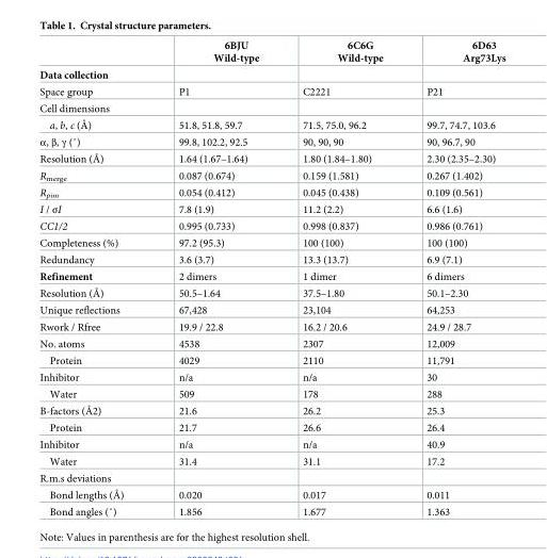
<table><thead><tr><td></td><td>6BJU Wild-type</td><td>6C6G Wild-type</td><td>6D63 Arg73Lys</td></tr></thead><tbody><tr><td colspan="4">Data collection</td></tr><tr><td>Space group</td><td>P1</td><td>C2221</td><td>P21</td></tr><tr><td colspan="4">Cell dimensions</td></tr><tr><td>a, b, c (Å)</td><td>51.8, 51.8, 59.7</td><td>71.5, 75.0, 96.2</td><td>99.7, 74.7, 103.6</td></tr><tr><td>α, β, γ (˚)</td><td>99.8, 102.2, 92.5</td><td>90, 90, 90</td><td>90, 96.7, 90</td></tr><tr><td>Resolution (Å)</td><td>1.64 (1.67–1.64)</td><td>1.80 (1.84–1.80)</td><td>2.30 (2.35–2.30)</td></tr><tr><td>R<sub>merge</sub></td><td>0.087 (0.674)</td><td>0.159 (1.581)</td><td>0.267 (1.402)</td></tr><tr><td>R<sub>pim</sub></td><td>0.054 (0.412)</td><td>0.045 (0.438)</td><td>0.109 (0.561)</td></tr><tr><td>I / σI</td><td>7.8 (1.9)</td><td>11.2 (2.2)</td><td>6.6 (1.6)</td></tr><tr><td>CC1/2</td><td>0.995 (0.733)</td><td>0.998 (0.837)</td><td>0.986 (0.761)</td></tr><tr><td>Completeness (%)</td><td>97.2 (95.3)</td><td>100 (100)</td><td>100 (100)</td></tr><tr><td>Redundancy</td><td>3.6 (3.7)</td><td>13.3 (13.7)</td><td>6.9 (7.1)</td></tr><tr><td>Refinement</td><td>2 dimers</td><td>1 dimer</td><td>6 dimers</td></tr><tr><td>Resolution (Å)</td><td>50.5–1.64</td><td>37.5–1.80</td><td>50.1–2.30</td></tr><tr><td>Unique reflections</td><td>67,428</td><td>23,104</td><td>64,253</td></tr><tr><td>Rwork / Rfree</td><td>19.9 / 22.8</td><td>16.2 / 20.6</td><td>24.9 / 28.7</td></tr><tr><td>No. atoms</td><td>4538</td><td>2307</td><td>12,009</td></tr><tr><td>Protein</td><td>4029</td><td>2110</td><td>11,791</td></tr><tr><td>Inhibitor</td><td>n/a</td><td>n/a</td><td>30</td></tr><tr><td>Water</td><td>509</td><td>178</td><td>288</td></tr><tr><td>B-factors (Å2)</td><td>21.6</td><td>26.2</td><td>25.3</td></tr><tr><td>Protein</td><td>21.7</td><td>26.6</td><td>26.4</td></tr><tr><td>Inhibitor</td><td>n/a</td><td>n/a</td><td>40.9</td></tr><tr><td>Water</td><td>31.4</td><td>31.1</td><td>17.2</td></tr><tr><td colspan="4">R.m.s deviations</td></tr><tr><td>Bond lengths (Å)</td><td>0.020</td><td>0.017</td><td>0.011</td></tr><tr><td>Bond angles (˚)</td><td>1.856</td><td>1.677</td><td>1.363</td></tr></tbody></table>